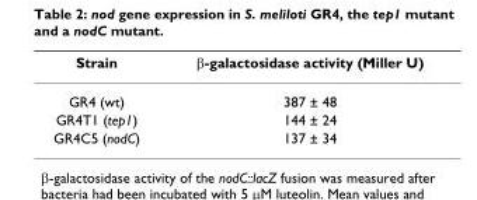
<table><thead><tr><td>Strain</td><td>β-galactosidase activity (Miller U)</td></tr></thead><tbody><tr><td>GR4 (wt)</td><td>387 ± 48</td></tr><tr><td>GR4T1 (tep1)</td><td>144 ± 24</td></tr><tr><td>GR4C5 (nodC)</td><td>137 ± 34</td></tr></tbody></table>